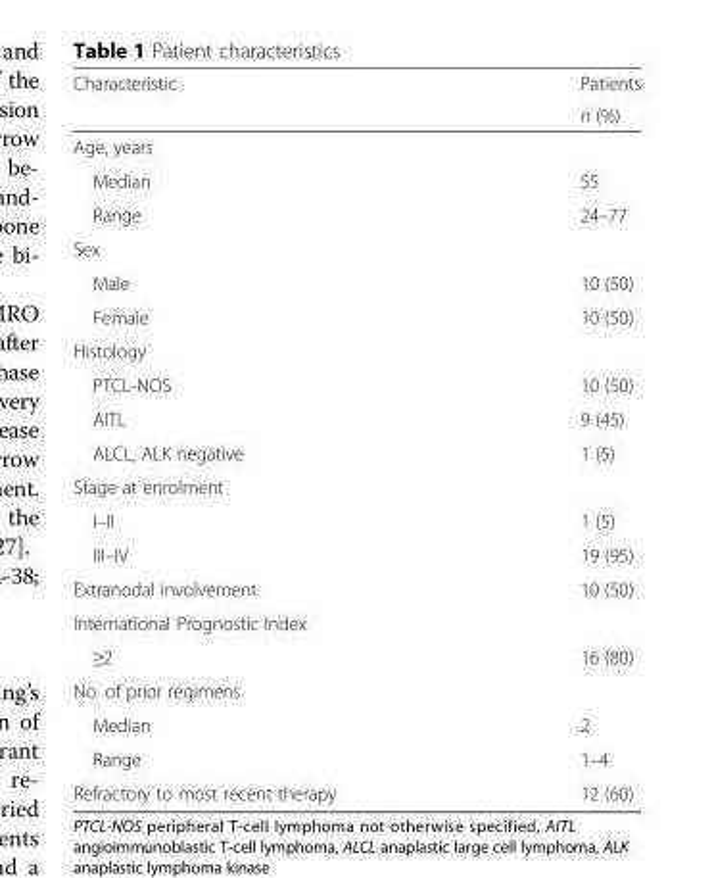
<table><thead><tr><td rowspan="2">Characteristic</td><td rowspan="2">Patients n (%)</td></tr><tr></tr></thead><tbody><tr><td colspan="2">Age, years</td></tr><tr><td>Median</td><td>55</td></tr><tr><td>Range</td><td>24–77</td></tr><tr><td colspan="2">Sex</td></tr><tr><td>Male</td><td>10 (50)</td></tr><tr><td>Female</td><td>10 (50)</td></tr><tr><td colspan="2">Histology</td></tr><tr><td>PTCL-NOS</td><td>10 (50)</td></tr><tr><td>AITL</td><td>9 (45)</td></tr><tr><td>ALCL, ALK negative</td><td>1 (5)</td></tr><tr><td colspan="2">Stage at enrolment</td></tr><tr><td>I–II</td><td>1 (5)</td></tr><tr><td>III–IV</td><td>19 (95)</td></tr><tr><td>Extranodal involvement</td><td>10 (50)</td></tr><tr><td colspan="2">International Prognostic Index</td></tr><tr><td>≥2</td><td>16 (80)</td></tr><tr><td colspan="2">No. of prior regimens</td></tr><tr><td>Median</td><td>2</td></tr><tr><td>Range</td><td>1–4</td></tr><tr><td>Refractory to most recent therapy</td><td>12 (60)</td></tr></tbody></table>